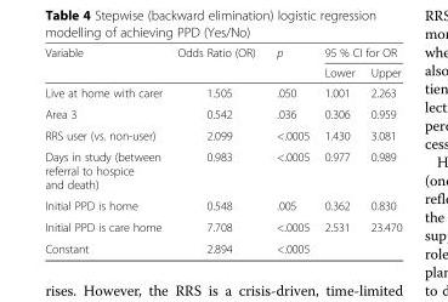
<table><thead><tr><td rowspan="2">Variable</td><td rowspan="2">Odds Ratio (OR)</td><td rowspan="2">p</td><td colspan="2">95 % CI for OR</td></tr><tr><td>Lower</td><td>Upper</td></tr></thead><tbody><tr><td>Live at home with carer</td><td>1.505</td><td>.050</td><td>1.001</td><td>2.263</td></tr><tr><td>Area 3</td><td>0.542</td><td>.036</td><td>0.306</td><td>0.959</td></tr><tr><td>RRS user (vs. non-user)</td><td>2.099</td><td>&lt;.0005</td><td>1.430</td><td>3.081</td></tr><tr><td>Days in study (between referral to hospice and death)</td><td>0.983</td><td>&lt;.0005</td><td>0.977</td><td>0.989</td></tr><tr><td>Initial PPD is home</td><td>0.548</td><td>.005</td><td>0.362</td><td>0.830</td></tr><tr><td>Initial PPD is care home</td><td>7.708</td><td>&lt;.0005</td><td>2.531</td><td>23.470</td></tr><tr><td>Constant</td><td>2.894</td><td>&lt;.0005</td><td></td><td></td></tr></tbody></table>